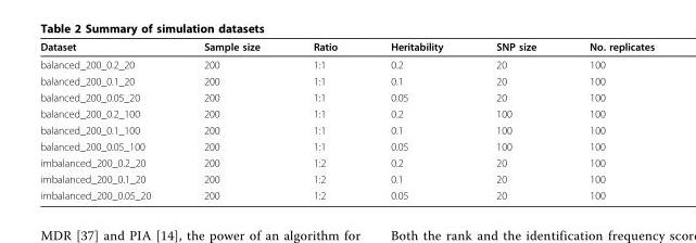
<table><thead><tr><td>Dataset</td><td>Sample size</td><td>Ratio</td><td>Heritability</td><td>SNP size</td><td>No. replicates</td></tr></thead><tbody><tr><td>balanced_200_0.2_20</td><td>200</td><td>1:1</td><td>0.2</td><td>20</td><td>100</td></tr><tr><td>balanced_200_0.1_20</td><td>200</td><td>1:1</td><td>0.1</td><td>20</td><td>100</td></tr><tr><td>balanced_200_0.05_20</td><td>200</td><td>1:1</td><td>0.05</td><td>20</td><td>100</td></tr><tr><td>balanced_200_0.2_100</td><td>200</td><td>1:1</td><td>0.2</td><td>100</td><td>100</td></tr><tr><td>balanced_200_0.1_100</td><td>200</td><td>1:1</td><td>0.1</td><td>100</td><td>100</td></tr><tr><td>balanced_200_0.05_100</td><td>200</td><td>1:1</td><td>0.05</td><td>100</td><td>100</td></tr><tr><td>imbalanced_200_0.2_20</td><td>200</td><td>1:2</td><td>0.2</td><td>20</td><td>100</td></tr><tr><td>imbalanced_200_0.1_20</td><td>200</td><td>1:2</td><td>0.1</td><td>20</td><td>100</td></tr><tr><td>imbalanced_200_0.05_20</td><td>200</td><td>1:2</td><td>0.05</td><td>20</td><td>100</td></tr></tbody></table>